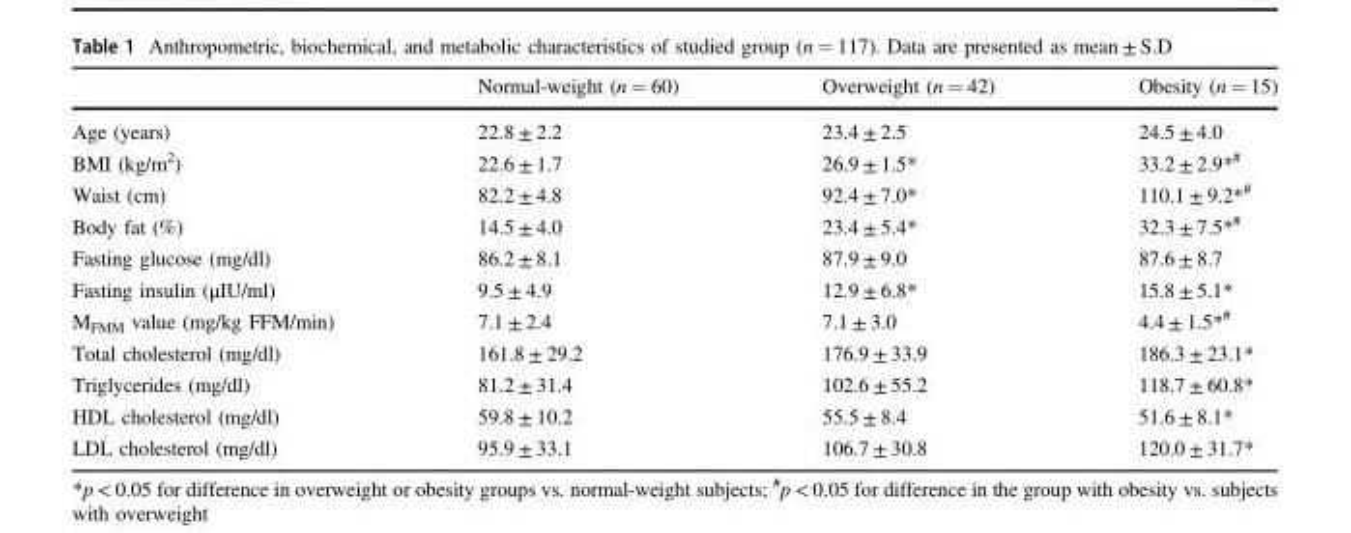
<table><thead><tr><td></td><td>Normal-weight (n = 60)</td><td>Overweight (n = 42)</td><td>Obesity (n = 15)</td></tr></thead><tbody><tr><td>Age (years)</td><td>22.8 ± 2.2</td><td>23.4 ± 2.5</td><td>24.5 ± 4.0</td></tr><tr><td>BMI (kg/m<sup>2</sup>)</td><td>22.6 ± 1.7</td><td>26.9 ± 1.5*</td><td>33.2 ± 2.9*<sup>#</sup></td></tr><tr><td>Waist (cm)</td><td>82.2 ± 4.8</td><td>92.4 ± 7.0*</td><td>110.1 ± 9.2*<sup>#</sup></td></tr><tr><td>Body fat (%)</td><td>14.5 ± 4.0</td><td>23.4 ± 5.4*</td><td>32.3 ± 7.5*<sup>#</sup></td></tr><tr><td>Fasting glucose (mg/dl)</td><td>86.2 ± 8.1</td><td>87.9 ± 9.0</td><td>87.6 ± 8.7</td></tr><tr><td>Fasting insulin (μIU/ml)</td><td>9.5 ± 4.9</td><td>12.9 ± 6.8*</td><td>15.8 ± 5.1*</td></tr><tr><td>M<sub>FMM</sub> value (mg/kg FFM/min)</td><td>7.1 ± 2.4</td><td>7.1 ± 3.0</td><td>4.4 ± 1.5*<sup>#</sup></td></tr><tr><td>Total cholesterol (mg/dl)</td><td>161.8 ± 29.2</td><td>176.9 ± 33.9</td><td>186.3 ± 23.1*</td></tr><tr><td>Triglycerides (mg/dl)</td><td>81.2 ± 31.4</td><td>102.6 ± 55.2</td><td>118.7 ± 60.8*</td></tr><tr><td>HDL cholesterol (mg/dl)</td><td>59.8 ± 10.2</td><td>55.5 ± 8.4</td><td>51.6 ± 8.1*</td></tr><tr><td>LDL cholesterol (mg/dl)</td><td>95.9 ± 33.1</td><td>106.7 ± 30.8</td><td>120.0 ± 31.7*</td></tr></tbody></table>